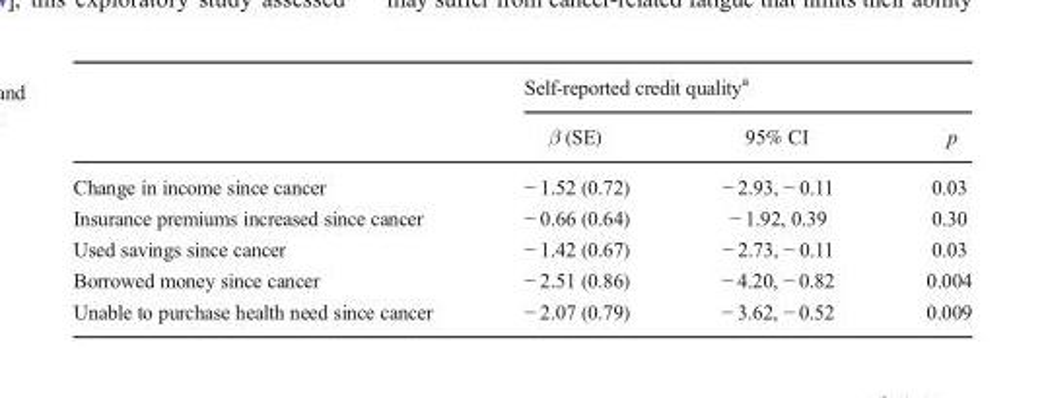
<table><thead><tr><td rowspan="2"></td><td colspan="3">Self-reported credit quality<sup>a</sup></td></tr><tr><td>β (SE)</td><td>95% CI</td><td>p</td></tr></thead><tbody><tr><td>Change in income since cancer</td><td>− 1.52 (0.72)</td><td>− 2.93, − 0.11</td><td>0.03</td></tr><tr><td>Insurance premiums increased since cancer</td><td>− 0.66 (0.64)</td><td>− 1.92, 0.39</td><td>0.30</td></tr><tr><td>Used savings since cancer</td><td>− 1.42 (0.67)</td><td>− 2.73, − 0.11</td><td>0.03</td></tr><tr><td>Borrowed money since cancer</td><td>− 2.51 (0.86)</td><td>− 4.20, − 0.82</td><td>0.004</td></tr><tr><td>Unable to purchase health need since cancer</td><td>− 2.07 (0.79)</td><td>− 3.62, − 0.52</td><td>0.009</td></tr></tbody></table>